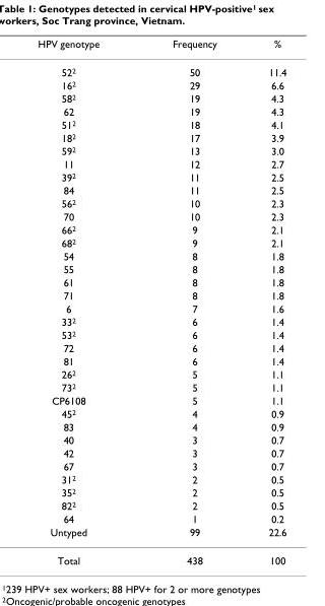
<table><thead><tr><td>HPV genotype</td><td>Frequency</td><td>%</td></tr></thead><tbody><tr><td>52<sup>2</sup></td><td>50</td><td>11.4</td></tr><tr><td>16<sup>2</sup></td><td>29</td><td>6.6</td></tr><tr><td>58<sup>2</sup></td><td>19</td><td>4.3</td></tr><tr><td>62</td><td>19</td><td>4.3</td></tr><tr><td>51<sup>2</sup></td><td>18</td><td>4.1</td></tr><tr><td>18<sup>2</sup></td><td>17</td><td>3.9</td></tr><tr><td>59<sup>2</sup></td><td>13</td><td>3.0</td></tr><tr><td>11</td><td>12</td><td>2.7</td></tr><tr><td>39<sup>2</sup></td><td>11</td><td>2.5</td></tr><tr><td>84</td><td>11</td><td>2.5</td></tr><tr><td>56<sup>2</sup></td><td>10</td><td>2.3</td></tr><tr><td>70</td><td>10</td><td>2.3</td></tr><tr><td>66<sup>2</sup></td><td>9</td><td>2.1</td></tr><tr><td>68<sup>2</sup></td><td>9</td><td>2.1</td></tr><tr><td>54</td><td>8</td><td>1.8</td></tr><tr><td>55</td><td>8</td><td>1.8</td></tr><tr><td>61</td><td>8</td><td>1.8</td></tr><tr><td>71</td><td>8</td><td>1.8</td></tr><tr><td>6</td><td>7</td><td>1.6</td></tr><tr><td>33<sup>2</sup></td><td>6</td><td>1.4</td></tr><tr><td>53<sup>2</sup></td><td>6</td><td>1.4</td></tr><tr><td>72</td><td>6</td><td>1.4</td></tr><tr><td>81</td><td>6</td><td>1.4</td></tr><tr><td>26<sup>2</sup></td><td>5</td><td>1.1</td></tr><tr><td>73<sup>2</sup></td><td>5</td><td>1.1</td></tr><tr><td>CP6108</td><td>5</td><td>1.1</td></tr><tr><td>45<sup>2</sup></td><td>4</td><td>0.9</td></tr><tr><td>83</td><td>4</td><td>0.9</td></tr><tr><td>40</td><td>3</td><td>0.7</td></tr><tr><td>42</td><td>3</td><td>0.7</td></tr><tr><td>67</td><td>3</td><td>0.7</td></tr><tr><td>31<sup>2</sup></td><td>2</td><td>0.5</td></tr><tr><td>35<sup>2</sup></td><td>2</td><td>0.5</td></tr><tr><td>82<sup>2</sup></td><td>2</td><td>0.5</td></tr><tr><td>64</td><td>1</td><td>0.2</td></tr><tr><td>Untyped</td><td>99</td><td>22.6</td></tr><tr><td>Total</td><td>438</td><td>100</td></tr></tbody></table>